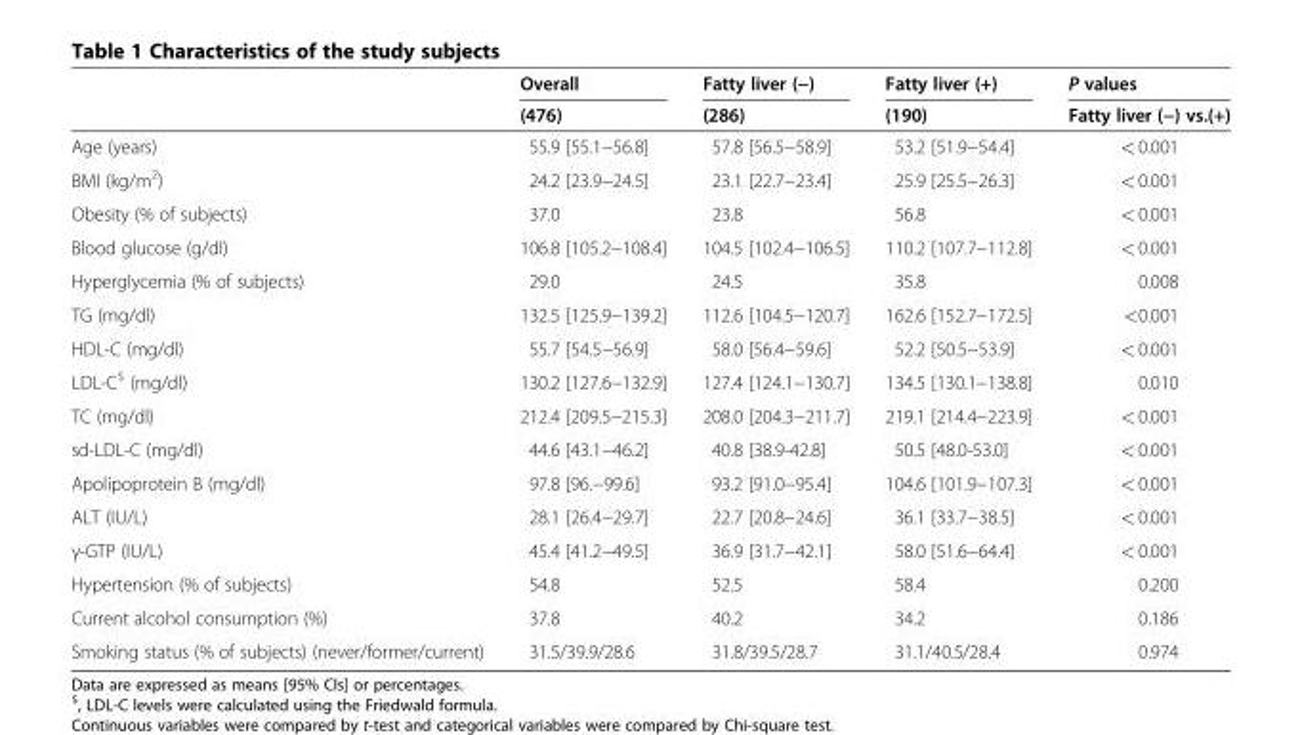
<table><thead><tr><td rowspan="2"></td><td rowspan="2">Overall (476)</td><td rowspan="2">Fatty liver (−) (286)</td><td rowspan="2">Fatty liver (+) (190)</td><td rowspan="2">P values Fatty liver (−) vs.(+)</td></tr><tr></tr></thead><tbody><tr><td>Age (years)</td><td>55.9 [55.1−56.8]</td><td>57.8 [56.5−58.9]</td><td>53.2 [51.9−54.4]</td><td>&lt; 0.001</td></tr><tr><td>BMI (kg/m<sup>2</sup>)</td><td>24.2 [23.9−24.5]</td><td>23.1 [22.7−23.4]</td><td>25.9 [25.5−26.3]</td><td>&lt; 0.001</td></tr><tr><td>Obesity (% of subjects)</td><td>37.0</td><td>23.8</td><td>56.8</td><td>&lt; 0.001</td></tr><tr><td>Blood glucose (g/dl)</td><td>106.8 [105.2−108.4]</td><td>104.5 [102.4−106.5]</td><td>110.2 [107.7−112.8]</td><td>&lt; 0.001</td></tr><tr><td>Hyperglycemia (% of subjects)</td><td>29.0</td><td>24.5</td><td>35.8</td><td>0.008</td></tr><tr><td>TG (mg/dl)</td><td>132.5 [125.9−139.2]</td><td>112.6 [104.5−120.7]</td><td>162.6 [152.7−172.5]</td><td>&lt;0.001</td></tr><tr><td>HDL-C (mg/dl)</td><td>55.7 [54.5−56.9]</td><td>58.0 [56.4−59.6]</td><td>52.2 [50.5−53.9]</td><td>&lt; 0.001</td></tr><tr><td>LDL-C<sup>$</sup> (mg/dl)</td><td>130.2 [127.6−132.9]</td><td>127.4 [124.1−130.7]</td><td>134.5 [130.1−138.8]</td><td>0.010</td></tr><tr><td>TC (mg/dl)</td><td>212.4 [209.5−215.3]</td><td>208.0 [204.3−211.7]</td><td>219.1 [214.4−223.9]</td><td>&lt; 0.001</td></tr><tr><td>sd-LDL-C (mg/dl)</td><td>44.6 [43.1−46.2]</td><td>40.8 [38.9-42.8]</td><td>50.5 [48.0-53.0]</td><td>&lt; 0.001</td></tr><tr><td>Apolipoprotein B (mg/dl)</td><td>97.8 [96.−99.6]</td><td>93.2 [91.0−95.4]</td><td>104.6 [101.9−107.3]</td><td>&lt; 0.001</td></tr><tr><td>ALT (IU/L)</td><td>28.1 [26.4−29.7]</td><td>22.7 [20.8−24.6]</td><td>36.1 [33.7−38.5]</td><td>&lt; 0.001</td></tr><tr><td>γ-GTP (IU/L)</td><td>45.4 [41.2−49.5]</td><td>36.9 [31.7−42.1]</td><td>58.0 [51.6−64.4]</td><td>&lt; 0.001</td></tr><tr><td>Hypertension (% of subjects)</td><td>54.8</td><td>52.5</td><td>58.4</td><td>0.200</td></tr><tr><td>Current alcohol consumption (%)</td><td>37.8</td><td>40.2</td><td>34.2</td><td>0.186</td></tr><tr><td>Smoking status (% of subjects) (never/former/current)</td><td>31.5/39.9/28.6</td><td>31.8/39.5/28.7</td><td>31.1/40.5/28.4</td><td>0.974</td></tr></tbody></table>